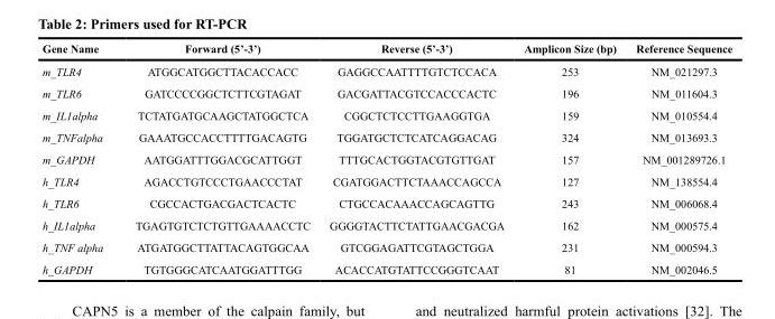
<table><thead><tr><td>Gene Name</td><td>Forward (5’-3’)</td><td>Reverse (5’-3’)</td><td>Amplicon Size (bp)</td><td>Reference Sequence</td></tr></thead><tbody><tr><td>m_TLR4</td><td>ATGGCATGGCTTACACCACC</td><td>GAGGCCAATTTTGTCTCCACA</td><td>253</td><td>NM_021297.3</td></tr><tr><td>m_TLR6</td><td>GATCCCCGGCTCTTCGTAGAT</td><td>GACGATTACGTCCACCCACTC</td><td>196</td><td>NM_011604.3</td></tr><tr><td>m_IL1alpha</td><td>TCTATGATGCAAGCTATGGCTCA</td><td>CGGCTCTCCTTGAAGGTGA</td><td>159</td><td>NM_010554.4</td></tr><tr><td>m_TNFalpha</td><td>GAAATGCCACCTTTTGACAGTG</td><td>TGGATGCTCTCATCAGGACAG</td><td>324</td><td>NM_013693.3</td></tr><tr><td>m_GAPDH</td><td>AATGGATTTGGACGCATTGGT</td><td>TTTGCACTGGTACGTGTTGAT</td><td>157</td><td>NM_001289726.1</td></tr><tr><td>h_TLR4</td><td>AGACCTGTCCCTGAACCCTAT</td><td>CGATGGACTTCTAAACCAGCCA</td><td>127</td><td>NM_138554.4</td></tr><tr><td>h_TLR6</td><td>CGCCACTGACGACTCACTC</td><td>CTGCCACAAACCAGCAGTTG</td><td>243</td><td>NM_006068.4</td></tr><tr><td>h_IL1alpha</td><td>TGAGTGTCTCTGTTGAAAACCTC</td><td>GGGGTACTTCTATTGAACGACGA</td><td>162</td><td>NM_000575.4</td></tr><tr><td>h_TNF alpha</td><td>ATGATGGCTTATTACAGTGGCAA</td><td>GTCGGAGATTCGTAGCTGGA</td><td>231</td><td>NM_000594.3</td></tr><tr><td>h_GAPDH</td><td>TGTGGGCATCAATGGATTTGG</td><td>ACACCATGTATTCCGGGTCAAT</td><td>81</td><td>NM_002046.5</td></tr></tbody></table>